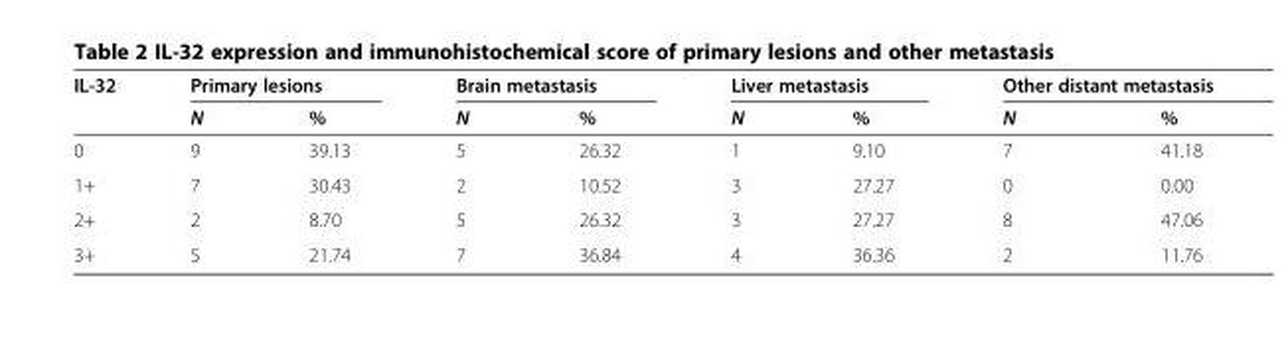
<table><thead><tr><td rowspan="2">IL-32</td><td colspan="2">Primary lesions</td><td colspan="2">Brain metastasis</td><td colspan="2">Liver metastasis</td><td colspan="2">Other distant metastasis</td></tr><tr><td>N</td><td>%</td><td>N</td><td>%</td><td>N</td><td>%</td><td>N</td><td>%</td></tr></thead><tbody><tr><td>0</td><td>9</td><td>39.13</td><td>5</td><td>26.32</td><td>1</td><td>9.10</td><td>7</td><td>41.18</td></tr><tr><td>1+</td><td>7</td><td>30.43</td><td>2</td><td>10.52</td><td>3</td><td>27.27</td><td>0</td><td>0.00</td></tr><tr><td>2+</td><td>2</td><td>8.70</td><td>5</td><td>26.32</td><td>3</td><td>27.27</td><td>8</td><td>47.06</td></tr><tr><td>3+</td><td>5</td><td>21.74</td><td>7</td><td>36.84</td><td>4</td><td>36.36</td><td>2</td><td>11.76</td></tr></tbody></table>